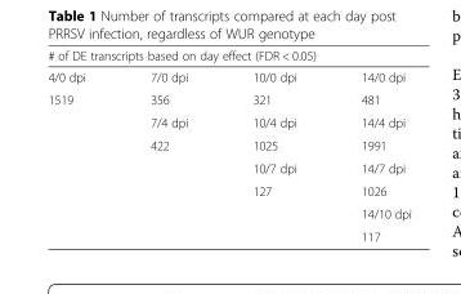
<table><thead><tr><td colspan="4"># of DE transcripts based on day effect (FDR &lt; 0.05)</td></tr><tr><td>4/0 dpi</td><td>7/0 dpi</td><td>10/0 dpi</td><td>14/0 dpi</td></tr></thead><tbody><tr><td rowspan="7">1519</td><td>356</td><td>321</td><td>481</td></tr><tr><td>7/4 dpi</td><td>10/4 dpi</td><td>14/4 dpi</td></tr><tr><td>422</td><td>1025</td><td>1991</td></tr><tr><td></td><td>10/7 dpi</td><td>14/7 dpi</td></tr><tr><td></td><td>127</td><td>1026</td></tr><tr><td></td><td></td><td>14/10 dpi</td></tr><tr><td></td><td></td><td>117</td></tr></tbody></table>